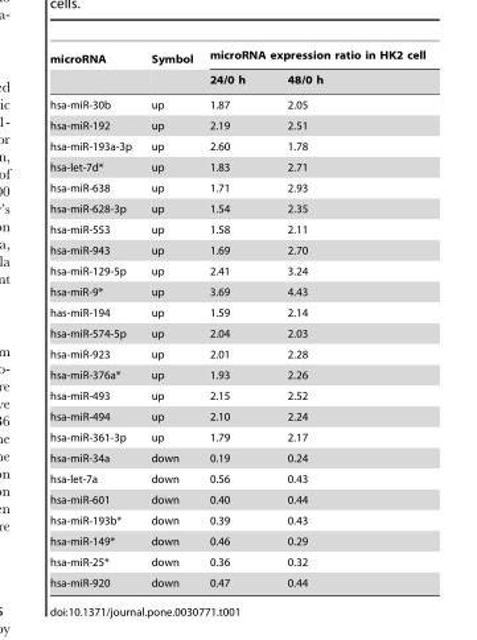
<table><thead><tr><td rowspan="2">microRNA</td><td rowspan="2">Symbol</td><td colspan="2">microRNA expression ratio in HK2 cell</td></tr><tr><td>24/0 h</td><td>48/0 h</td></tr></thead><tbody><tr><td>hsa-miR-30b</td><td>up</td><td>1.87</td><td>2.05</td></tr><tr><td>hsa-miR-192</td><td>up</td><td>2.19</td><td>2.51</td></tr><tr><td>hsa-miR-193a-3p</td><td>up</td><td>2.60</td><td>1.78</td></tr><tr><td>hsa-let-7d*</td><td>up</td><td>1.83</td><td>2.71</td></tr><tr><td>hsa-miR-638</td><td>up</td><td>1.71</td><td>2.93</td></tr><tr><td>hsa-miR-628-3p</td><td>up</td><td>1.54</td><td>2.35</td></tr><tr><td>hsa-miR-553</td><td>up</td><td>1.58</td><td>2.11</td></tr><tr><td>hsa-miR-943</td><td>up</td><td>1.69</td><td>2.70</td></tr><tr><td>hsa-miR-129-5p</td><td>up</td><td>2.41</td><td>3.24</td></tr><tr><td>hsa-miR-9*</td><td>up</td><td>3.69</td><td>4.43</td></tr><tr><td>has-miR-194</td><td>up</td><td>1.59</td><td>2.14</td></tr><tr><td>hsa-miR-574-5p</td><td>up</td><td>2.04</td><td>2.03</td></tr><tr><td>hsa-miR-923</td><td>up</td><td>2.01</td><td>2.28</td></tr><tr><td>hsa-miR-376a*</td><td>up</td><td>1.93</td><td>2.26</td></tr><tr><td>hsa-miR-493</td><td>up</td><td>2.15</td><td>2.52</td></tr><tr><td>hsa-miR-494</td><td>up</td><td>2.10</td><td>2.24</td></tr><tr><td>hsa-miR-361-3p</td><td>up</td><td>1.79</td><td>2.17</td></tr><tr><td>hsa-miR-34a</td><td>down</td><td>0.19</td><td>0.24</td></tr><tr><td>hsa-let-7a</td><td>down</td><td>0.56</td><td>0.43</td></tr><tr><td>hsa-miR-601</td><td>down</td><td>0.40</td><td>0.44</td></tr><tr><td>hsa-miR-193b*</td><td>down</td><td>0.39</td><td>0.43</td></tr><tr><td>hsa-miR-149*</td><td>down</td><td>0.46</td><td>0.29</td></tr><tr><td>hsa-miR-25*</td><td>down</td><td>0.36</td><td>0.32</td></tr><tr><td>hsa-miR-920</td><td>down</td><td>0.47</td><td>0.44</td></tr></tbody></table>